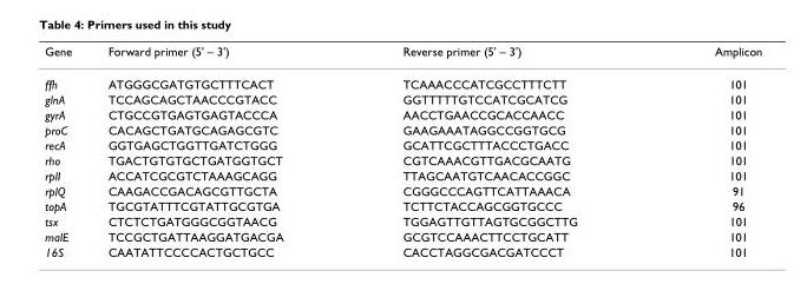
<table><thead><tr><td>Gene</td><td>Forward primer (5&#x27; – 3&#x27;)</td><td>Reverse primer (5&#x27; – 3&#x27;)</td><td>Amplicon</td></tr></thead><tbody><tr><td>ffh</td><td>ATGGGCGATGTGCTTTCACT</td><td>TCAAACCCATCGCCTTTCTT</td><td>101</td></tr><tr><td>glnA</td><td>TCCAGCAGCTAACCCGTACC</td><td>GGTTTTTGTCCATCGCATCG</td><td>101</td></tr><tr><td>gyrA</td><td>CTGCCGTGAGTGAGTACCCA</td><td>AACCTGAACCGCACCAACC</td><td>101</td></tr><tr><td>proC</td><td>CACAGCTGATGCAGAGCGTC</td><td>GAAGAAATAGGCCGGTGCG</td><td>101</td></tr><tr><td>recA</td><td>GGTGAGCTGGTTGATCTGGG</td><td>GCATTCGCTTTACCCTGACC</td><td>101</td></tr><tr><td>rho</td><td>TGACTGTGTGCTGATGGTGCT</td><td>CGTCAAACGTTGACGCAATG</td><td>101</td></tr><tr><td>rplI</td><td>ACCATCGCGTCTAAAGCAGG</td><td>TTAGCAATGTCAACACCGGC</td><td>101</td></tr><tr><td>rplQ</td><td>CAAGACCGACAGCGTTGCTA</td><td>CGGGCCCAGTTCATTAAACA</td><td>91</td></tr><tr><td>topA</td><td>TGCGTATTTCGTATTGCGTGA</td><td>TCTTCTACCAGCGGTGCCC</td><td>96</td></tr><tr><td>tsx</td><td>CTCTCTGATGGGCGGTAACG</td><td>TGGAGTTGTTAGTGCGGCTTG</td><td>101</td></tr><tr><td>malE</td><td>TCCGCTGATTAAGGATGACGA</td><td>GCGTCCAAACTTCCTGCATT</td><td>101</td></tr><tr><td>16S</td><td>CAATATTCCCCACTGCTGCC</td><td>CACCTAGGCGACGATCCCT</td><td>101</td></tr></tbody></table>